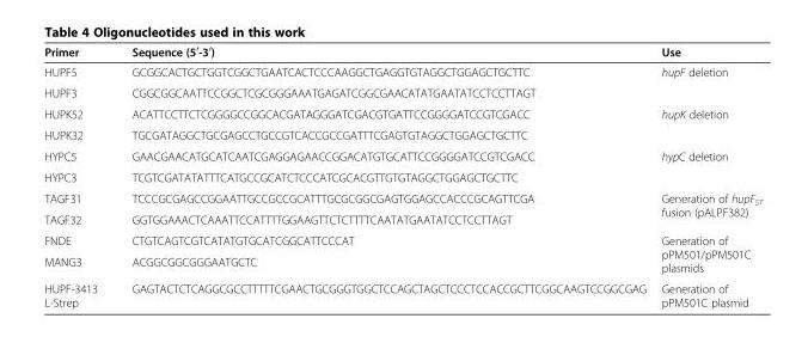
<table><thead><tr><td>Primer</td><td>Sequence (5<sup>′</sup>-3<sup>′</sup>)</td><td>Use</td></tr></thead><tbody><tr><td>HUPF5</td><td>GCGGCACTGCTGGTCGGCTGAATCACTCCCAAGGCTGAGGTGTAGGCTGGAGCTGCTTC</td><td rowspan="2">hupF deletion</td></tr><tr><td>HUPF3</td><td>CGGCGGCAATTCCGGCTCGCGGGAAATGAGATCGGCGAACATATGAATATCCTCCTTAGT</td></tr><tr><td>HUPK52</td><td>ACATTCCTTCTCGGGGCCGGCACGATAGGGATCGACGTGATTCCGGGGATCCGTCGACC</td><td rowspan="2">hupK deletion</td></tr><tr><td>HUPK32</td><td>TGCGATAGGCTGCGAGCCTGCCGTCACCGCCGATTTCGAGTGTAGGCTGGAGCTGCTTC</td></tr><tr><td>HYPC5</td><td>GAACGAACATGCATCAATCGAGGAGAACCGGACATGTGCATTCCGGGGATCCGTCGACC</td><td rowspan="2">hypC deletion</td></tr><tr><td>HYPC3</td><td>TCGTCGATATATTTCATGCCGCATCTCCCATCGCACGTTGTGTAGGCTGGAGCTGCTTC</td></tr><tr><td>TAGF31</td><td>TCCCGCGAGCCGGAATTGCCGCCGCATTTGCGCGGCGAGTGGAGCCACCCGCAGTTCGA</td><td rowspan="2">Generation of hupF<sub>ST</sub> fusion (pALPF382)</td></tr><tr><td>TAGF32</td><td>GGTGGAAACTCAAATTCCATTTTGGAAGTTCTCTTTTCAATATGAATATCCTCCTTAGT</td></tr><tr><td>FNDE</td><td>CTGTCAGTCGTCATATGTGCATCGGCATTCCCAT</td><td rowspan="2">Generation of pPM501/pPM501C plasmids</td></tr><tr><td>MANG3</td><td>ACGGCGGCGGGAATGCTC</td></tr><tr><td>HUPF-3413 L-Strep</td><td>GAGTACTCTCAGGCGCCTTTTTCGAACTGCGGGTGGCTCCAGCTAGCTCCCTCCACCGCTTCGGCAAGTCCGGCGAG</td><td>Generation of pPM501C plasmid</td></tr></tbody></table>